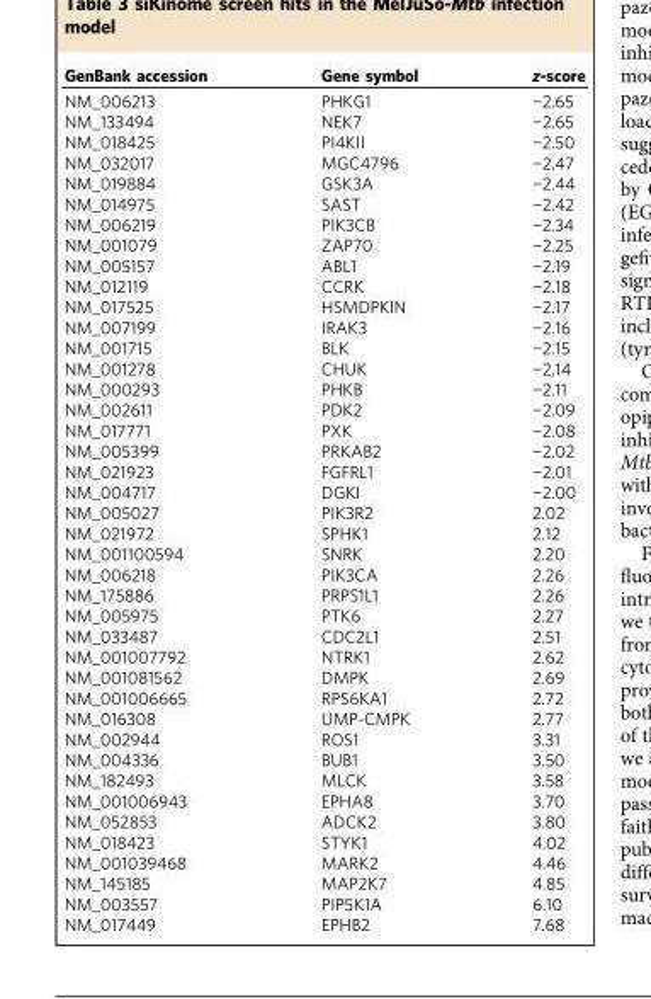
<table><thead><tr><td>GenBank accession</td><td>Gene symbol</td><td>z-score</td></tr></thead><tbody><tr><td>NM_006213</td><td>PHKG1</td><td>−2.65</td></tr><tr><td>NM_133494</td><td>NEK7</td><td>−2.65</td></tr><tr><td>NM_018425</td><td>PI4KII</td><td>−2.50</td></tr><tr><td>NM_032017</td><td>MGC4796</td><td>−2.47</td></tr><tr><td>NM_019884</td><td>GSK3A</td><td>−2.44</td></tr><tr><td>NM_014975</td><td>SAST</td><td>−2.42</td></tr><tr><td>NM_006219</td><td>PIK3CB</td><td>−2.34</td></tr><tr><td>NM_001079</td><td>ZAP70</td><td>−2.25</td></tr><tr><td>NM_005157</td><td>ABL1</td><td>−2.19</td></tr><tr><td>NM_012119</td><td>CCRK</td><td>−2.18</td></tr><tr><td>NM_017525</td><td>HSMDPKIN</td><td>−2.17</td></tr><tr><td>NM_007199</td><td>IRAK3</td><td>−2.16</td></tr><tr><td>NM_001715</td><td>BLK</td><td>−2.15</td></tr><tr><td>NM_001278</td><td>CHUK</td><td>−2.14</td></tr><tr><td>NM_000293</td><td>PHKB</td><td>−2.11</td></tr><tr><td>NM_002611</td><td>PDK2</td><td>−2.09</td></tr><tr><td>NM_017771</td><td>PXK</td><td>−2.08</td></tr><tr><td>NM_005399</td><td>PRKAB2</td><td>−2.02</td></tr><tr><td>NM_021923</td><td>FGFRL1</td><td>−2.01</td></tr><tr><td>NM_004717</td><td>DGKI</td><td>−2.00</td></tr><tr><td>NM_005027</td><td>PIK3R2</td><td>2.02</td></tr><tr><td>NM_021972</td><td>SPHK1</td><td>2.12</td></tr><tr><td>NM_001100594</td><td>SNRK</td><td>2.20</td></tr><tr><td>NM_006218</td><td>PIK3CA</td><td>2.26</td></tr><tr><td>NM_175886</td><td>PRPS1L1</td><td>2.26</td></tr><tr><td>NM_005975</td><td>PTK6</td><td>2.27</td></tr><tr><td>NM_033487</td><td>CDC2L1</td><td>2.51</td></tr><tr><td>NM_001007792</td><td>NTRK1</td><td>2.62</td></tr><tr><td>NM_001081562</td><td>DMPK</td><td>2.69</td></tr><tr><td>NM_001006665</td><td>RPS6KA1</td><td>2.72</td></tr><tr><td>NM_016308</td><td>UMP-CMPK</td><td>2.77</td></tr><tr><td>NM_002944</td><td>ROS1</td><td>3.31</td></tr><tr><td>NM_004336</td><td>BUB1</td><td>3.50</td></tr><tr><td>NM_182493</td><td>MLCK</td><td>3.58</td></tr><tr><td>NM_001006943</td><td>EPHA8</td><td>3.70</td></tr><tr><td>NM_052853</td><td>ADCK2</td><td>3.80</td></tr><tr><td>NM_018423</td><td>STYK1</td><td>4.02</td></tr><tr><td>NM_001039468</td><td>MARK2</td><td>4.46</td></tr><tr><td>NM_145185</td><td>MAP2K7</td><td>4.85</td></tr><tr><td>NM_003557</td><td>PIP5K1A</td><td>6.10</td></tr><tr><td>NM_017449</td><td>EPHB2</td><td>7.68</td></tr></tbody></table>